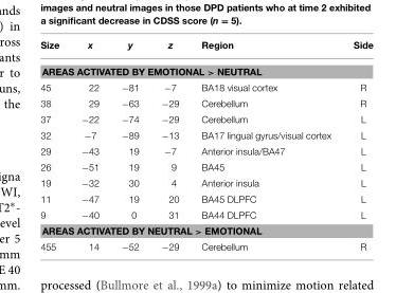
<table><thead><tr><td>Size</td><td>x</td><td>y</td><td>z</td><td>Region</td><td>Side</td></tr></thead><tbody><tr><td colspan="6">AREAS ACTIVATED BY EMOTIONAL &gt; NEUTRAL</td></tr><tr><td>45</td><td>22</td><td>−81</td><td>−7</td><td>BA18 visual cortex</td><td>R</td></tr><tr><td>38</td><td>29</td><td>−63</td><td>−29</td><td>Cerebellum</td><td>R</td></tr><tr><td>37</td><td>−22</td><td>−74</td><td>−29</td><td>Cerebellum</td><td>L</td></tr><tr><td>32</td><td>−7</td><td>−89</td><td>−13</td><td>BA17 lingual gyrus/visual cortex</td><td>L</td></tr><tr><td>29</td><td>−43</td><td>19</td><td>−7</td><td>Anterior insula/BA47</td><td>L</td></tr><tr><td>26</td><td>−51</td><td>19</td><td>9</td><td>BA45</td><td>L</td></tr><tr><td>19</td><td>−32</td><td>30</td><td>4</td><td>Anterior insula</td><td>L</td></tr><tr><td>11</td><td>−47</td><td>19</td><td>20</td><td>BA45 DLPFC</td><td>L</td></tr><tr><td>9</td><td>−40</td><td>0</td><td>31</td><td>BA44 DLPFC</td><td>L</td></tr><tr><td colspan="6">AREAS ACTIVATED BY NEUTRAL &gt; EMOTIONAL</td></tr><tr><td>455</td><td>14</td><td>−52</td><td>−29</td><td>Cerebellum</td><td>R</td></tr></tbody></table>